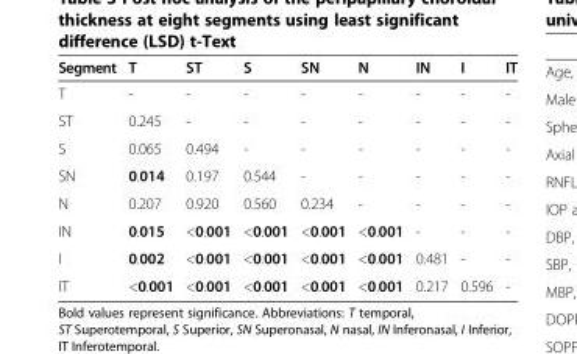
<table><thead><tr><td>Segment</td><td>T</td><td>ST</td><td>S</td><td>SN</td><td>N</td><td>IN</td><td>I</td><td>IT</td></tr></thead><tbody><tr><td>T</td><td>-</td><td>-</td><td>-</td><td>-</td><td>-</td><td>-</td><td>-</td><td>-</td></tr><tr><td>ST</td><td>0.245</td><td>-</td><td>-</td><td>-</td><td>-</td><td>-</td><td>-</td><td>-</td></tr><tr><td>S</td><td>0.065</td><td>0.494</td><td>-</td><td>-</td><td>-</td><td>-</td><td>-</td><td>-</td></tr><tr><td>SN</td><td>0.014</td><td>0.197</td><td>0.544</td><td>-</td><td>-</td><td>-</td><td>-</td><td>-</td></tr><tr><td>N</td><td>0.207</td><td>0.920</td><td>0.560</td><td>0.234</td><td>-</td><td>-</td><td>-</td><td>-</td></tr><tr><td>IN</td><td>0.015</td><td>&lt;0.001</td><td>&lt;0.001</td><td>&lt;0.001</td><td>&lt;0.001</td><td>-</td><td>-</td><td>-</td></tr><tr><td>I</td><td>0.002</td><td>&lt;0.001</td><td>&lt;0.001</td><td>&lt;0.001</td><td>&lt;0.001</td><td>0.481</td><td>-</td><td>-</td></tr><tr><td>IT</td><td>&lt;0.001</td><td>&lt;0.001</td><td>&lt;0.001</td><td>&lt;0.001</td><td>&lt;0.001</td><td>0.217</td><td>0.596</td><td>-</td></tr></tbody></table>